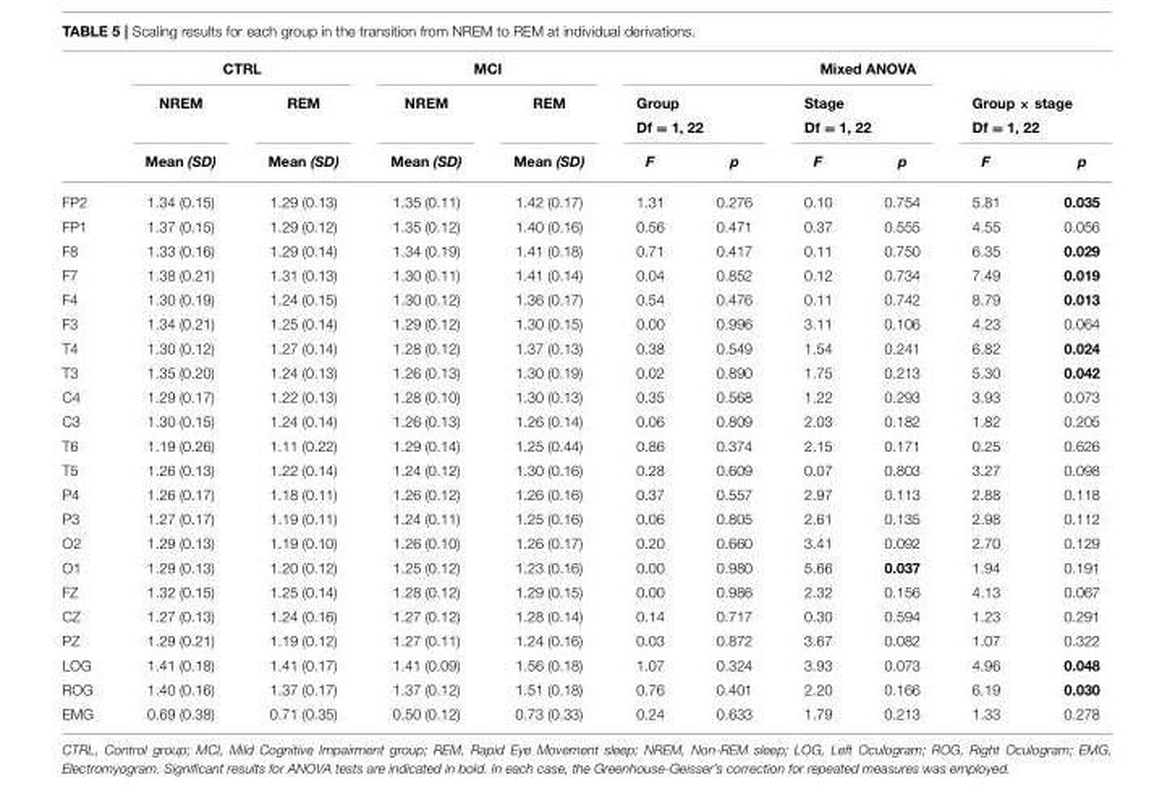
<table><thead><tr><td rowspan="4"></td><td colspan="2">CTRL</td><td colspan="2">MCI</td><td colspan="6">Mixed ANOVA</td></tr><tr><td rowspan="3">NREM Mean (SD)</td><td rowspan="3">REM Mean (SD)</td><td rowspan="3">NREM Mean (SD)</td><td rowspan="3">REM Mean (SD)</td><td rowspan="2" colspan="2">Group Df = 1, 22</td><td rowspan="2" colspan="2">Stage Df = 1, 22</td><td rowspan="2" colspan="2">Group × stage Df = 1, 22</td></tr><tr></tr><tr><td>F</td><td>p</td><td>F</td><td>p</td><td>F</td><td>p</td></tr></thead><tbody><tr><td>FP2</td><td>1.34 (0.15)</td><td>1.29 (0.13)</td><td>1.35 (0.11)</td><td>1.42 (0.17)</td><td>1.31</td><td>0.276</td><td>0.10</td><td>0.754</td><td>5.81</td><td>0.035</td></tr><tr><td>FP1</td><td>1.37 (0.15)</td><td>1.29 (0.12)</td><td>1.35 (0.12)</td><td>1.40 (0.16)</td><td>0.56</td><td>0.471</td><td>0.37</td><td>0.555</td><td>4.55</td><td>0.056</td></tr><tr><td>F8</td><td>1.33 (0.16)</td><td>1.29 (0.14)</td><td>1.34 (0.19)</td><td>1.41 (0.18)</td><td>0.71</td><td>0.417</td><td>0.11</td><td>0.750</td><td>6.35</td><td>0.029</td></tr><tr><td>F7</td><td>1.38 (0.21)</td><td>1.31 (0.13)</td><td>1.30 (0.11)</td><td>1.41 (0.14)</td><td>0.04</td><td>0.852</td><td>0.12</td><td>0.734</td><td>7.49</td><td>0.019</td></tr><tr><td>F4</td><td>1.30 (0.19)</td><td>1.24 (0.15)</td><td>1.30 (0.12)</td><td>1.36 (0.17)</td><td>0.54</td><td>0.476</td><td>0.11</td><td>0.742</td><td>8.79</td><td>0.013</td></tr><tr><td>F3</td><td>1.34 (0.21)</td><td>1.25 (0.14)</td><td>1.29 (0.12)</td><td>1.30 (0.15)</td><td>0.00</td><td>0.996</td><td>3.11</td><td>0.106</td><td>4.23</td><td>0.064</td></tr><tr><td>T4</td><td>1.30 (0.12)</td><td>1.27 (0.14)</td><td>1.28 (0.12)</td><td>1.37 (0.13)</td><td>0.38</td><td>0.549</td><td>1.54</td><td>0.241</td><td>6.82</td><td>0.024</td></tr><tr><td>T3</td><td>1.35 (0.20)</td><td>1.24 (0.13)</td><td>1.26 (0.13)</td><td>1.30 (0.19)</td><td>0.02</td><td>0.890</td><td>1.75</td><td>0.213</td><td>5.30</td><td>0.042</td></tr><tr><td>C4</td><td>1.29 (0.17)</td><td>1.22 (0.13)</td><td>1.28 (0.10)</td><td>1.30 (0.13)</td><td>0.35</td><td>0.568</td><td>1.22</td><td>0.293</td><td>3.93</td><td>0.073</td></tr><tr><td>C3</td><td>1.30 (0.15)</td><td>1.24 (0.14)</td><td>1.26 (0.13)</td><td>1.26 (0.14)</td><td>0.06</td><td>0.809</td><td>2.03</td><td>0.182</td><td>1.82</td><td>0.205</td></tr><tr><td>T6</td><td>1.19 (0.26)</td><td>1.11 (0.22)</td><td>1.29 (0.14)</td><td>1.25 (0.44)</td><td>0.86</td><td>0.374</td><td>2.15</td><td>0.171</td><td>0.25</td><td>0.626</td></tr><tr><td>T5</td><td>1.26 (0.13)</td><td>1.22 (0.14)</td><td>1.24 (0.12)</td><td>1.30 (0.16)</td><td>0.28</td><td>0.609</td><td>0.07</td><td>0.803</td><td>3.27</td><td>0.098</td></tr><tr><td>P4</td><td>1.26 (0.17)</td><td>1.18 (0.11)</td><td>1.26 (0.12)</td><td>1.26 (0.16)</td><td>0.37</td><td>0.557</td><td>2.97</td><td>0.113</td><td>2.88</td><td>0.118</td></tr><tr><td>P3</td><td>1.27 (0.17)</td><td>1.19 (0.11)</td><td>1.24 (0.11)</td><td>1.25 (0.16)</td><td>0.06</td><td>0.805</td><td>2.61</td><td>0.135</td><td>2.98</td><td>0.112</td></tr><tr><td>O2</td><td>1.29 (0.13)</td><td>1.19 (0.10)</td><td>1.26 (0.10)</td><td>1.26 (0.17)</td><td>0.20</td><td>0.660</td><td>3.41</td><td>0.092</td><td>2.70</td><td>0.129</td></tr><tr><td>O1</td><td>1.29 (0.13)</td><td>1.20 (0.12)</td><td>1.25 (0.12)</td><td>1.23 (0.16)</td><td>0.00</td><td>0.980</td><td>5.66</td><td>0.037</td><td>1.94</td><td>0.191</td></tr><tr><td>FZ</td><td>1.32 (0.15)</td><td>1.25 (0.14)</td><td>1.28 (0.12)</td><td>1.29 (0.15)</td><td>0.00</td><td>0.986</td><td>2.32</td><td>0.156</td><td>4.13</td><td>0.067</td></tr><tr><td>CZ</td><td>1.27 (0.13)</td><td>1.24 (0.16)</td><td>1.27 (0.12)</td><td>1.28 (0.14)</td><td>0.14</td><td>0.717</td><td>0.30</td><td>0.594</td><td>1.23</td><td>0.291</td></tr><tr><td>PZ</td><td>1.29 (0.21)</td><td>1.19 (0.12)</td><td>1.27 (0.11)</td><td>1.24 (0.16)</td><td>0.03</td><td>0.872</td><td>3.67</td><td>0.082</td><td>1.07</td><td>0.322</td></tr><tr><td>LOG</td><td>1.41 (0.18)</td><td>1.41 (0.17)</td><td>1.41 (0.09)</td><td>1.56 (0.18)</td><td>1.07</td><td>0.324</td><td>3.93</td><td>0.073</td><td>4.96</td><td>0.048</td></tr><tr><td>ROG</td><td>1.40 (0.16)</td><td>1.37 (0.17)</td><td>1.37 (0.12)</td><td>1.51 (0.18)</td><td>0.76</td><td>0.401</td><td>2.20</td><td>0.166</td><td>6.19</td><td>0.030</td></tr><tr><td>EMG</td><td>0.69 (0.38)</td><td>0.71 (0.35)</td><td>0.50 (0.12)</td><td>0.73 (0.33)</td><td>0.24</td><td>0.633</td><td>1.79</td><td>0.213</td><td>1.33</td><td>0.278</td></tr></tbody></table>